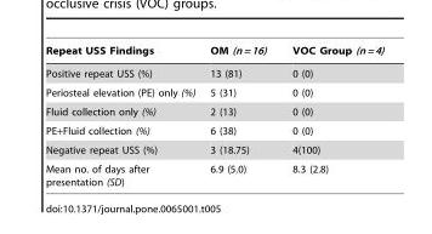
<table><thead><tr><td>Repeat USS Findings</td><td>OM (n = 16)</td><td>VOC Group (n = 4)</td></tr></thead><tbody><tr><td>Positive repeat USS (%)</td><td>13 (81)</td><td>0 (0)</td></tr><tr><td>Periosteal elevation (PE) only (%)</td><td>5 (31)</td><td>0 (0)</td></tr><tr><td>Fluid collection only (%)</td><td>2 (13)</td><td>0 (0)</td></tr><tr><td>PE+Fluid collection (%)</td><td>6 (38)</td><td>0 (0)</td></tr><tr><td>Negative repeat USS (%)</td><td>3 (18.75)</td><td>4(100)</td></tr><tr><td>Mean no. of days after presentation (SD)</td><td>6.9 (5.0)</td><td>8.3 (2.8)</td></tr></tbody></table>